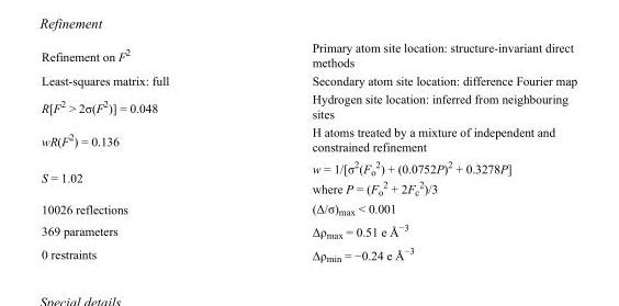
<table><tbody><tr><td>Refinement on F<sup>2</sup></td><td>Primary atom site location: structure-invariant direct methods</td></tr><tr><td>Least-squares matrix: full</td><td>Secondary atom site location: difference Fourier map</td></tr><tr><td>R[F<sup>2</sup> &gt; 2σ(F<sup>2</sup>)] = 0.048</td><td>Hydrogen site location: inferred from neighbouring sites</td></tr><tr><td>wR(F<sup>2</sup>) = 0.136</td><td>H atoms treated by a mixture of independent and constrained refinement</td></tr><tr><td>S = 1.02</td><td>w = 1/[σ<sup>2</sup>(F<sub>o</sub> <sup>2</sup>) + (0.0752P)<sup>2</sup> + 0.3278P] where P = (F<sub>o</sub> <sup>2</sup> + 2F<sub>c</sub> <sup>2</sup>)/3</td></tr><tr><td>10026 reflections</td><td>(Δ/σ)<sub>max</sub> &lt; 0.001</td></tr><tr><td>369 parameters</td><td>Δρ<sub>max</sub> = 0.51 e Å<sup>−3</sup></td></tr><tr><td>0 restraints</td><td>Δρ<sub>min</sub> = −0.24 e Å<sup>−3</sup></td></tr></tbody></table>